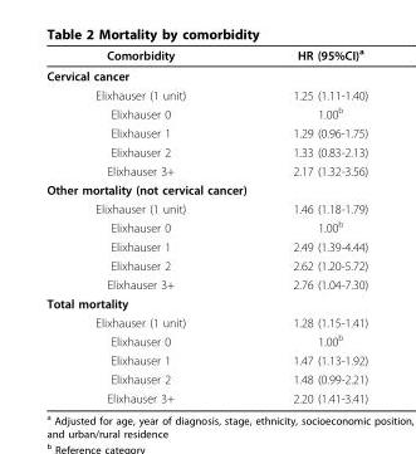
<table><thead><tr><td>Comorbidity</td><td>HR (95%CI)<sup>a</sup></td></tr></thead><tbody><tr><td colspan="2">Cervical cancer</td></tr><tr><td>Elixhauser (1 unit)</td><td>1.25 (1.11-1.40)</td></tr><tr><td>Elixhauser 0</td><td>1.00<sup>b</sup></td></tr><tr><td>Elixhauser 1</td><td>1.29 (0.96-1.75)</td></tr><tr><td>Elixhauser 2</td><td>1.33 (0.83-2.13)</td></tr><tr><td>Elixhauser 3+</td><td>2.17 (1.32-3.56)</td></tr><tr><td colspan="2">Other mortality (not cervical cancer)</td></tr><tr><td>Elixhauser (1 unit)</td><td>1.46 (1.18-1.79)</td></tr><tr><td>Elixhauser 0</td><td>1.00<sup>b</sup></td></tr><tr><td>Elixhauser 1</td><td>2.49 (1.39-4.44)</td></tr><tr><td>Elixhauser 2</td><td>2.62 (1.20-5.72)</td></tr><tr><td>Elixhauser 3+</td><td>2.76 (1.04-7.30)</td></tr><tr><td colspan="2">Total mortality</td></tr><tr><td>Elixhauser (1 unit)</td><td>1.28 (1.15-1.41)</td></tr><tr><td>Elixhauser 0</td><td>1.00<sup>b</sup></td></tr><tr><td>Elixhauser 1</td><td>1.47 (1.13-1.92)</td></tr><tr><td>Elixhauser 2</td><td>1.48 (0.99-2.21)</td></tr><tr><td>Elixhauser 3+</td><td>2.20 (1.41-3.41)</td></tr></tbody></table>